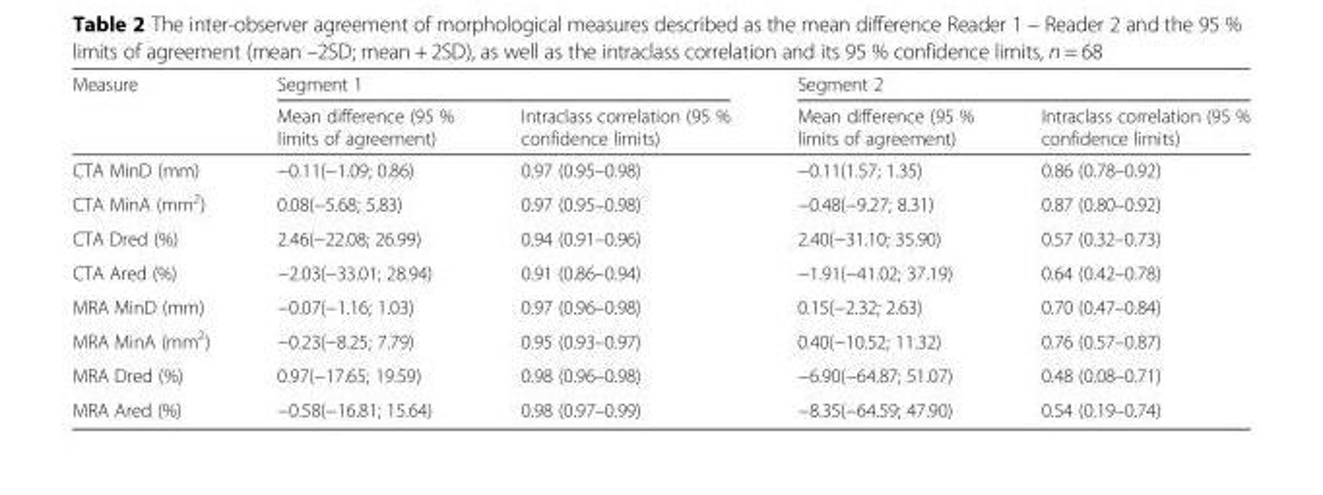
<table><thead><tr><td rowspan="2">Measure</td><td colspan="2">Segment 1</td><td colspan="2">Segment 2</td></tr><tr><td>Mean difference (95 % limits of agreement)</td><td>Intraclass correlation (95 % confidence limits)</td><td>Mean difference (95 % limits of agreement)</td><td>Intraclass correlation (95 % confidence limits)</td></tr></thead><tbody><tr><td>CTA MinD (mm)</td><td>−0.11(−1.09; 0.86)</td><td>0.97 (0.95–0.98)</td><td>−0.11(1.57; 1.35)</td><td>0.86 (0.78–0.92)</td></tr><tr><td>CTA MinA (mm<sup>2</sup>)</td><td>0.08(−5.68; 5.83)</td><td>0.97 (0.95–0.98)</td><td>−0.48(−9.27; 8.31)</td><td>0.87 (0.80–0.92)</td></tr><tr><td>CTA Dred (%)</td><td>2.46(−22.08; 26.99)</td><td>0.94 (0.91–0.96)</td><td>2.40(−31.10; 35.90)</td><td>0.57 (0.32–0.73)</td></tr><tr><td>CTA Ared (%)</td><td>−2.03(−33.01; 28.94)</td><td>0.91 (0.86–0.94)</td><td>−1.91(−41.02; 37.19)</td><td>0.64 (0.42–0.78)</td></tr><tr><td>MRA MinD (mm)</td><td>−0.07(−1.16; 1.03)</td><td>0.97 (0.96–0.98)</td><td>0.15(−2.32; 2.63)</td><td>0.70 (0.47–0.84)</td></tr><tr><td>MRA MinA (mm<sup>2</sup>)</td><td>−0.23(−8.25; 7.79)</td><td>0.95 (0.93–0.97)</td><td>0.40(−10.52; 11.32)</td><td>0.76 (0.57–0.87)</td></tr><tr><td>MRA Dred (%)</td><td>0.97(−17.65; 19.59)</td><td>0.98 (0.96–0.98)</td><td>−6.90(−64.87; 51.07)</td><td>0.48 (0.08–0.71)</td></tr><tr><td>MRA Ared (%)</td><td>−0.58(−16.81; 15.64)</td><td>0.98 (0.97–0.99)</td><td>−8.35(−64.59; 47.90)</td><td>0.54 (0.19–0.74)</td></tr></tbody></table>